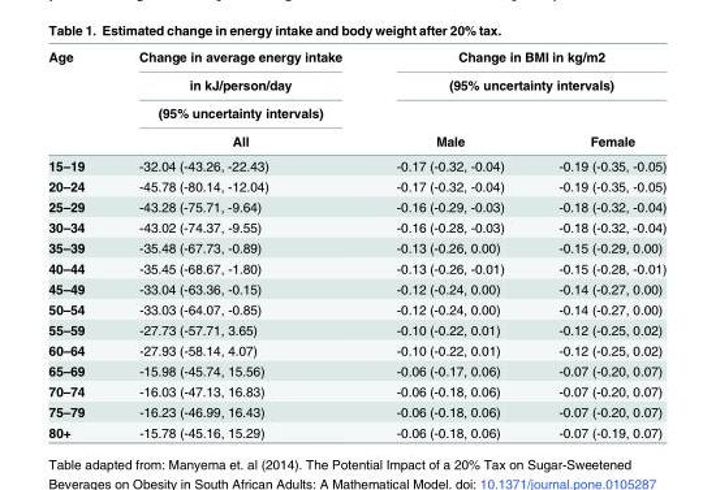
<table><thead><tr><td rowspan="4">Age</td><td rowspan="4">Change in average energy intake in kJ/person/day (95% uncertainty intervals) All</td><td rowspan="2" colspan="2">Change in BMI in kg/m2 (95% uncertainty intervals)</td></tr><tr></tr><tr><td rowspan="2">Male</td><td rowspan="2">Female</td></tr><tr></tr></thead><tbody><tr><td>15–19</td><td>-32.04 (-43.26, -22.43)</td><td>-0.17 (-0.32, -0.04)</td><td>-0.19 (-0.35, -0.05)</td></tr><tr><td>20–24</td><td>-45.78 (-80.14, -12.04)</td><td>-0.17 (-0.32, -0.04)</td><td>-0.19 (-0.35, -0.05)</td></tr><tr><td>25–29</td><td>-43.28 (-75.71, -9.64)</td><td>-0.16 (-0.29, -0.03)</td><td>-0.18 (-0.32, -0.04)</td></tr><tr><td>30–34</td><td>-43.02 (-74.37, -9.55)</td><td>-0.16 (-0.28, -0.03)</td><td>-0.18 (-0.32, -0.04)</td></tr><tr><td>35–39</td><td>-35.48 (-67.73, -0.89)</td><td>-0.13 (-0.26, 0.00)</td><td>-0.15 (-0.29, 0.00)</td></tr><tr><td>40–44</td><td>-35.45 (-68.67, -1.80)</td><td>-0.13 (-0.26, -0.01)</td><td>-0.15 (-0.28, -0.01)</td></tr><tr><td>45–49</td><td>-33.04 (-63.36, -0.15)</td><td>-0.12 (-0.24, 0.00)</td><td>-0.14 (-0.27, 0.00)</td></tr><tr><td>50–54</td><td>-33.03 (-64.07, -0.85)</td><td>-0.12 (-0.24, 0.00)</td><td>-0.14 (-0.27, 0.00)</td></tr><tr><td>55–59</td><td>-27.73 (-57.71, 3.65)</td><td>-0.10 (-0.22, 0.01)</td><td>-0.12 (-0.25, 0.02)</td></tr><tr><td>60–64</td><td>-27.93 (-58.14, 4.07)</td><td>-0.10 (-0.22, 0.01)</td><td>-0.12 (-0.25, 0.02)</td></tr><tr><td>65–69</td><td>-15.98 (-45.74, 15.56)</td><td>-0.06 (-0.17, 0.06)</td><td>-0.07 (-0.20, 0.07)</td></tr><tr><td>70–74</td><td>-16.03 (-47.13, 16.83)</td><td>-0.06 (-0.18, 0.06)</td><td>-0.07 (-0.20, 0.07)</td></tr><tr><td>75–79</td><td>-16.23 (-46.99, 16.43)</td><td>-0.06 (-0.18, 0.06)</td><td>-0.07 (-0.20, 0.07)</td></tr><tr><td>80+</td><td>-15.78 (-45.16, 15.29)</td><td>-0.06 (-0.18, 0.06)</td><td>-0.07 (-0.19, 0.07)</td></tr></tbody></table>